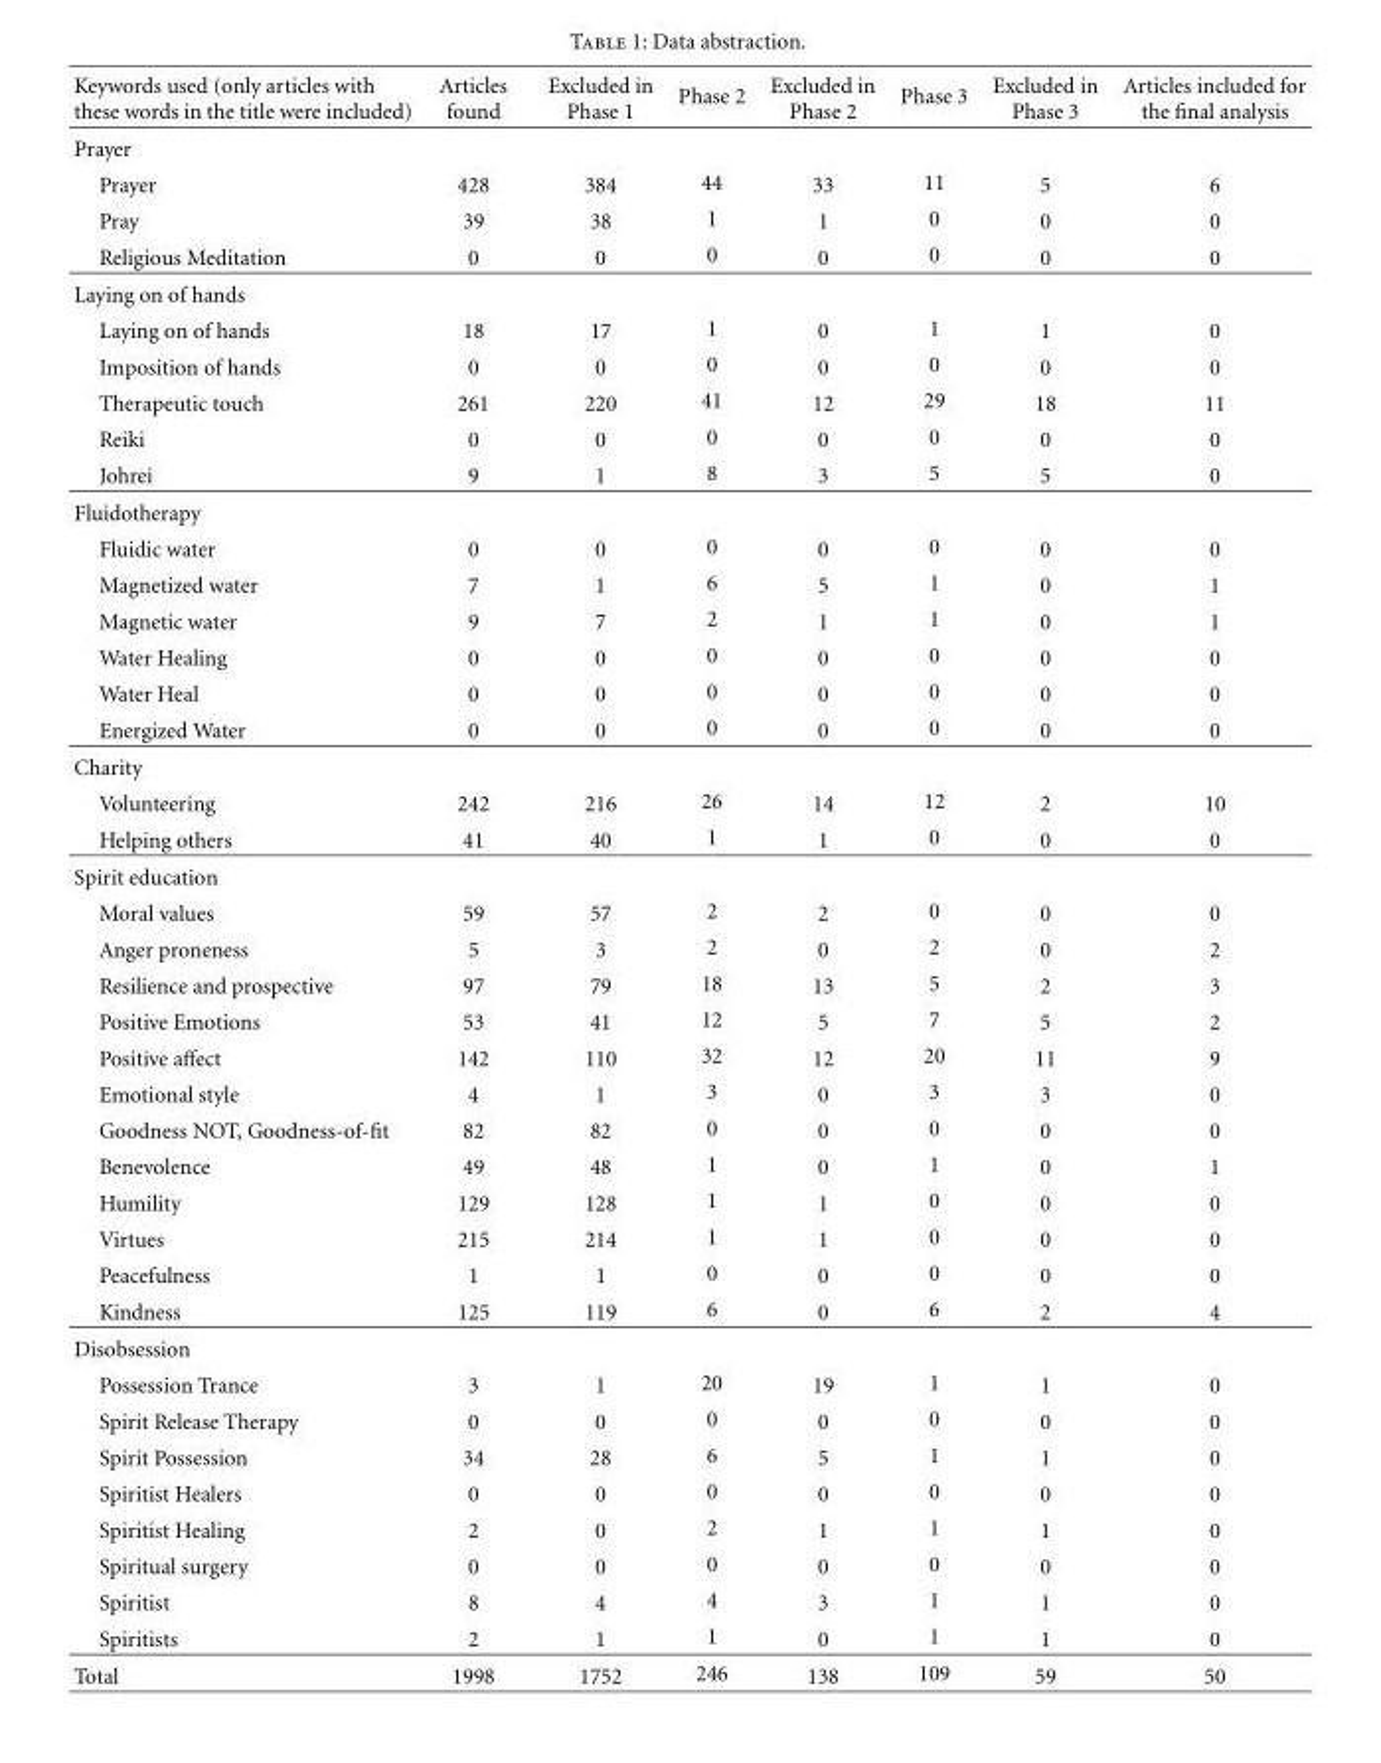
<table><thead><tr><td>Keywords used (only articles with these words in the title were included)</td><td>Articles found</td><td>Excluded in Phase 1</td><td>Phase 2</td><td>Excluded in Phase 2</td><td>Phase 3</td><td>Excluded in Phase 3</td><td>Articles included for the final analysis</td></tr></thead><tbody><tr><td colspan="8">Prayer</td></tr><tr><td>Prayer</td><td>428</td><td>384</td><td>44</td><td>33</td><td>11</td><td>5</td><td>6</td></tr><tr><td>Pray</td><td>39</td><td>38</td><td>1</td><td>1</td><td>0</td><td>0</td><td>0</td></tr><tr><td>Religious Meditation</td><td>0</td><td>0</td><td>0</td><td>0</td><td>0</td><td>0</td><td>0</td></tr><tr><td colspan="8">Laying on of hands</td></tr><tr><td>Laying on of hands</td><td>18</td><td>17</td><td>1</td><td>0</td><td>1</td><td>1</td><td>0</td></tr><tr><td>Imposition of hands</td><td>0</td><td>0</td><td>0</td><td>0</td><td>0</td><td>0</td><td>0</td></tr><tr><td>Therapeutic touch</td><td>261</td><td>220</td><td>41</td><td>12</td><td>29</td><td>18</td><td>11</td></tr><tr><td>Reiki</td><td>0</td><td>0</td><td>0</td><td>0</td><td>0</td><td>0</td><td>0</td></tr><tr><td>Johrei</td><td>9</td><td>1</td><td>8</td><td>3</td><td>5</td><td>5</td><td>0</td></tr><tr><td colspan="8">Fluidotherapy</td></tr><tr><td>Fluidic water</td><td>0</td><td>0</td><td>0</td><td>0</td><td>0</td><td>0</td><td>0</td></tr><tr><td>Magnetized water</td><td>7</td><td>1</td><td>6</td><td>5</td><td>1</td><td>0</td><td>1</td></tr><tr><td>Magnetic water</td><td>9</td><td>7</td><td>2</td><td>1</td><td>1</td><td>0</td><td>1</td></tr><tr><td>Water Healing</td><td>0</td><td>0</td><td>0</td><td>0</td><td>0</td><td>0</td><td>0</td></tr><tr><td>Water Heal</td><td>0</td><td>0</td><td>0</td><td>0</td><td>0</td><td>0</td><td>0</td></tr><tr><td>Energized Water</td><td>0</td><td>0</td><td>0</td><td>0</td><td>0</td><td>0</td><td>0</td></tr><tr><td colspan="8">Charity</td></tr><tr><td>Volunteering</td><td>242</td><td>216</td><td>26</td><td>14</td><td>12</td><td>2</td><td>10</td></tr><tr><td>Helping others</td><td>41</td><td>40</td><td>1</td><td>1</td><td>0</td><td>0</td><td>0</td></tr><tr><td colspan="8">Spirit education</td></tr><tr><td>Moral values</td><td>59</td><td>57</td><td>2</td><td>2</td><td>0</td><td>0</td><td>0</td></tr><tr><td>Anger proneness</td><td>5</td><td>3</td><td>2</td><td>0</td><td>2</td><td>0</td><td>2</td></tr><tr><td>Resilience and prospective</td><td>97</td><td>79</td><td>18</td><td>13</td><td>5</td><td>2</td><td>3</td></tr><tr><td>Positive Emotions</td><td>53</td><td>41</td><td>12</td><td>5</td><td>7</td><td>5</td><td>2</td></tr><tr><td>Positive affect</td><td>142</td><td>110</td><td>32</td><td>12</td><td>20</td><td>11</td><td>9</td></tr><tr><td>Emotional style</td><td>4</td><td>1</td><td>3</td><td>0</td><td>3</td><td>3</td><td>0</td></tr><tr><td>Goodness NOT, Goodness-of-fit</td><td>82</td><td>82</td><td>0</td><td>0</td><td>0</td><td>0</td><td>0</td></tr><tr><td>Benevolence</td><td>49</td><td>48</td><td>1</td><td>0</td><td>1</td><td>0</td><td>1</td></tr><tr><td>Humility</td><td>129</td><td>128</td><td>1</td><td>1</td><td>0</td><td>0</td><td>0</td></tr><tr><td>Virtues</td><td>215</td><td>214</td><td>1</td><td>1</td><td>0</td><td>0</td><td>0</td></tr><tr><td>Peacefulness</td><td>1</td><td>1</td><td>0</td><td>0</td><td>0</td><td>0</td><td>0</td></tr><tr><td>Kindness</td><td>125</td><td>119</td><td>6</td><td>0</td><td>6</td><td>2</td><td>4</td></tr><tr><td colspan="8">Disobsession</td></tr><tr><td>Possession Trance</td><td>3</td><td>1</td><td>20</td><td>19</td><td>1</td><td>1</td><td>0</td></tr><tr><td>Spirit Release Therapy</td><td>0</td><td>0</td><td>0</td><td>0</td><td>0</td><td>0</td><td>0</td></tr><tr><td>Spirit Possession</td><td>34</td><td>28</td><td>6</td><td>5</td><td>1</td><td>1</td><td>0</td></tr><tr><td>Spiritist Healers</td><td>0</td><td>0</td><td>0</td><td>0</td><td>0</td><td>0</td><td>0</td></tr><tr><td>Spiritist Healing</td><td>2</td><td>0</td><td>2</td><td>1</td><td>1</td><td>1</td><td>0</td></tr><tr><td>Spiritual surgery</td><td>0</td><td>0</td><td>0</td><td>0</td><td>0</td><td>0</td><td>0</td></tr><tr><td>Spiritist</td><td>8</td><td>4</td><td>4</td><td>3</td><td>1</td><td>1</td><td>0</td></tr><tr><td>Spiritists</td><td>2</td><td>1</td><td>1</td><td>0</td><td>1</td><td>1</td><td>0</td></tr><tr><td>Total</td><td>1998</td><td>1752</td><td>246</td><td>138</td><td>109</td><td>59</td><td>50</td></tr></tbody></table>